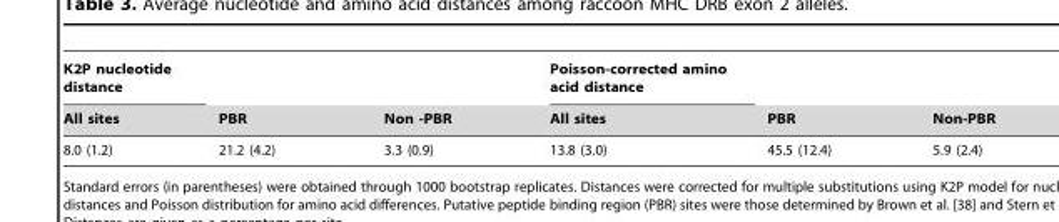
<table><thead><tr><td rowspan="2">K2P nucleotide distance All sites</td><td rowspan="2">PBR</td><td rowspan="2">Non -PBR</td><td rowspan="2">Poisson-corrected amino acid distance All sites</td><td rowspan="2">PBR</td><td rowspan="2">Non-PBR</td></tr><tr></tr></thead><tbody><tr><td>8.0 (1.2)</td><td>21.2 (4.2)</td><td>3.3 (0.9)</td><td>13.8 (3.0)</td><td>45.5 (12.4)</td><td>5.9 (2.4)</td></tr></tbody></table>